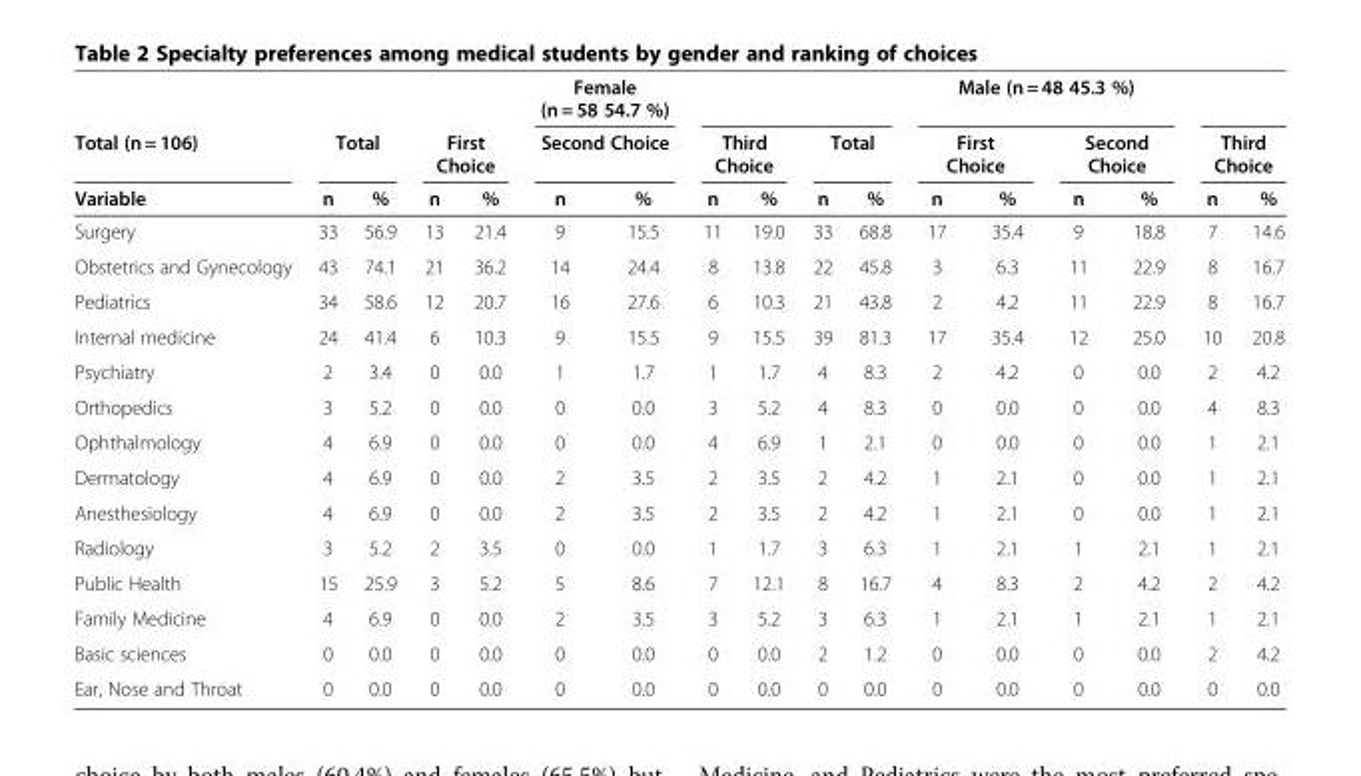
<table><thead><tr><td rowspan="3">Total (n = 106) Variable</td><td></td><td></td><td></td><td></td><td rowspan="2" colspan="2">Female (n = 58 54.7 %) Second Choice</td><td></td><td></td><td></td><td></td><td colspan="4">Male (n = 48 45.3 %)</td><td></td><td></td></tr><tr><td colspan="2">Total</td><td colspan="2">First Choice</td><td colspan="2">Third Choice</td><td colspan="2">Total</td><td colspan="2">First Choice</td><td colspan="2">Second Choice</td><td colspan="2">Third Choice</td></tr><tr><td>n</td><td>%</td><td>n</td><td>%</td><td>n</td><td>%</td><td>n</td><td>%</td><td>n</td><td>%</td><td>n</td><td>%</td><td>n</td><td>%</td><td>n</td><td>%</td></tr></thead><tbody><tr><td>Surgery</td><td>33</td><td>56.9</td><td>13</td><td>21.4</td><td>9</td><td>15.5</td><td>11</td><td>19.0</td><td>33</td><td>68.8</td><td>17</td><td>35.4</td><td>9</td><td>18.8</td><td>7</td><td>14.6</td></tr><tr><td>Obstetrics and Gynecology</td><td>43</td><td>74.1</td><td>21</td><td>36.2</td><td>14</td><td>24.4</td><td>8</td><td>13.8</td><td>22</td><td>45.8</td><td>3</td><td>6.3</td><td>11</td><td>22.9</td><td>8</td><td>16.7</td></tr><tr><td>Pediatrics</td><td>34</td><td>58.6</td><td>12</td><td>20.7</td><td>16</td><td>27.6</td><td>6</td><td>10.3</td><td>21</td><td>43.8</td><td>2</td><td>4.2</td><td>11</td><td>22.9</td><td>8</td><td>16.7</td></tr><tr><td>Internal medicine</td><td>24</td><td>41.4</td><td>6</td><td>10.3</td><td>9</td><td>15.5</td><td>9</td><td>15.5</td><td>39</td><td>81.3</td><td>17</td><td>35.4</td><td>12</td><td>25.0</td><td>10</td><td>20.8</td></tr><tr><td>Psychiatry</td><td>2</td><td>3.4</td><td>0</td><td>0.0</td><td>1</td><td>1.7</td><td>1</td><td>1.7</td><td>4</td><td>8.3</td><td>2</td><td>4.2</td><td>0</td><td>0.0</td><td>2</td><td>4.2</td></tr><tr><td>Orthopedics</td><td>3</td><td>5.2</td><td>0</td><td>0.0</td><td>0</td><td>0.0</td><td>3</td><td>5.2</td><td>4</td><td>8.3</td><td>0</td><td>0.0</td><td>0</td><td>0.0</td><td>4</td><td>8.3</td></tr><tr><td>Ophthalmology</td><td>4</td><td>6.9</td><td>0</td><td>0.0</td><td>0</td><td>0.0</td><td>4</td><td>6.9</td><td>1</td><td>2.1</td><td>0</td><td>0.0</td><td>0</td><td>0.0</td><td>1</td><td>2.1</td></tr><tr><td>Dermatology</td><td>4</td><td>6.9</td><td>0</td><td>0.0</td><td>2</td><td>3.5</td><td>2</td><td>3.5</td><td>2</td><td>4.2</td><td>1</td><td>2.1</td><td>0</td><td>0.0</td><td>1</td><td>2.1</td></tr><tr><td>Anesthesiology</td><td>4</td><td>6.9</td><td>0</td><td>0.0</td><td>2</td><td>3.5</td><td>2</td><td>3.5</td><td>2</td><td>4.2</td><td>1</td><td>2.1</td><td>0</td><td>0.0</td><td>1</td><td>2.1</td></tr><tr><td>Radiology</td><td>3</td><td>5.2</td><td>2</td><td>3.5</td><td>0</td><td>0.0</td><td>1</td><td>1.7</td><td>3</td><td>6.3</td><td>1</td><td>2.1</td><td>1</td><td>2.1</td><td>1</td><td>2.1</td></tr><tr><td>Public Health</td><td>15</td><td>25.9</td><td>3</td><td>5.2</td><td>5</td><td>8.6</td><td>7</td><td>12.1</td><td>8</td><td>16.7</td><td>4</td><td>8.3</td><td>2</td><td>4.2</td><td>2</td><td>4.2</td></tr><tr><td>Family Medicine</td><td>4</td><td>6.9</td><td>0</td><td>0.0</td><td>2</td><td>3.5</td><td>3</td><td>5.2</td><td>3</td><td>6.3</td><td>1</td><td>2.1</td><td>1</td><td>2.1</td><td>1</td><td>2.1</td></tr><tr><td>Basic sciences</td><td>0</td><td>0.0</td><td>0</td><td>0.0</td><td>0</td><td>0.0</td><td>0</td><td>0.0</td><td>2</td><td>1.2</td><td>0</td><td>0.0</td><td>0</td><td>0.0</td><td>2</td><td>4.2</td></tr><tr><td>Ear, Nose and Throat</td><td>0</td><td>0.0</td><td>0</td><td>0.0</td><td>0</td><td>0.0</td><td>0</td><td>0.0</td><td>0</td><td>0.0</td><td>0</td><td>0.0</td><td>0</td><td>0.0</td><td>0</td><td>0.0</td></tr></tbody></table>